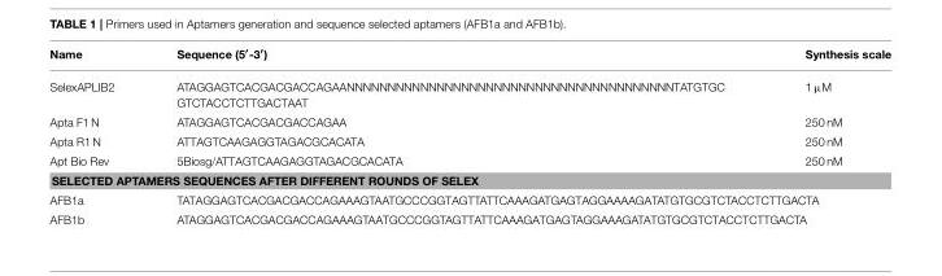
<table><thead><tr><td>Name</td><td>Sequence (5′-3′)</td><td>Synthesis scale</td></tr></thead><tbody><tr><td>SelexAPLIB2</td><td>ATAGGAGTCACGACGACCAGAANNNNNNNNNNNNNNNNNNNNNNNNNNNNNNNNNNNNNNNNTATGTGC GTCTACCTCTTGACTAAT</td><td>1 µM</td></tr><tr><td>Apta F1 N</td><td>ATAGGAGTCACGACGACCAGAA</td><td>250 nM</td></tr><tr><td>Apta R1 N</td><td>ATTAGTCAAGAGGTAGACGCACATA</td><td>250 nM</td></tr><tr><td>Apt Bio Rev</td><td>5Biosg/ATTAGTCAAGAGGTAGACGCACATA</td><td>250 nM</td></tr><tr><td colspan="3">SELECTED APTAMERS SEQUENCES AFTER DIFFERENT ROUNDS OF SELEX</td></tr><tr><td>AFB1a</td><td colspan="2">TATAGGAGTCACGACGACCAGAAAGTAATGCCCGGTAGTTATTCAAAGATGAGTAGGAAAAGATATGTGCGTCTACCTCTTGACTA</td></tr><tr><td>AFB1b</td><td colspan="2">ATAGGAGTCACGACGACCAGAAAGTAATGCCCGGTAGTTATTCAAAGATGAGTAGGAAAGATATGTGCGTCTACCTCTTGACTA</td></tr></tbody></table>